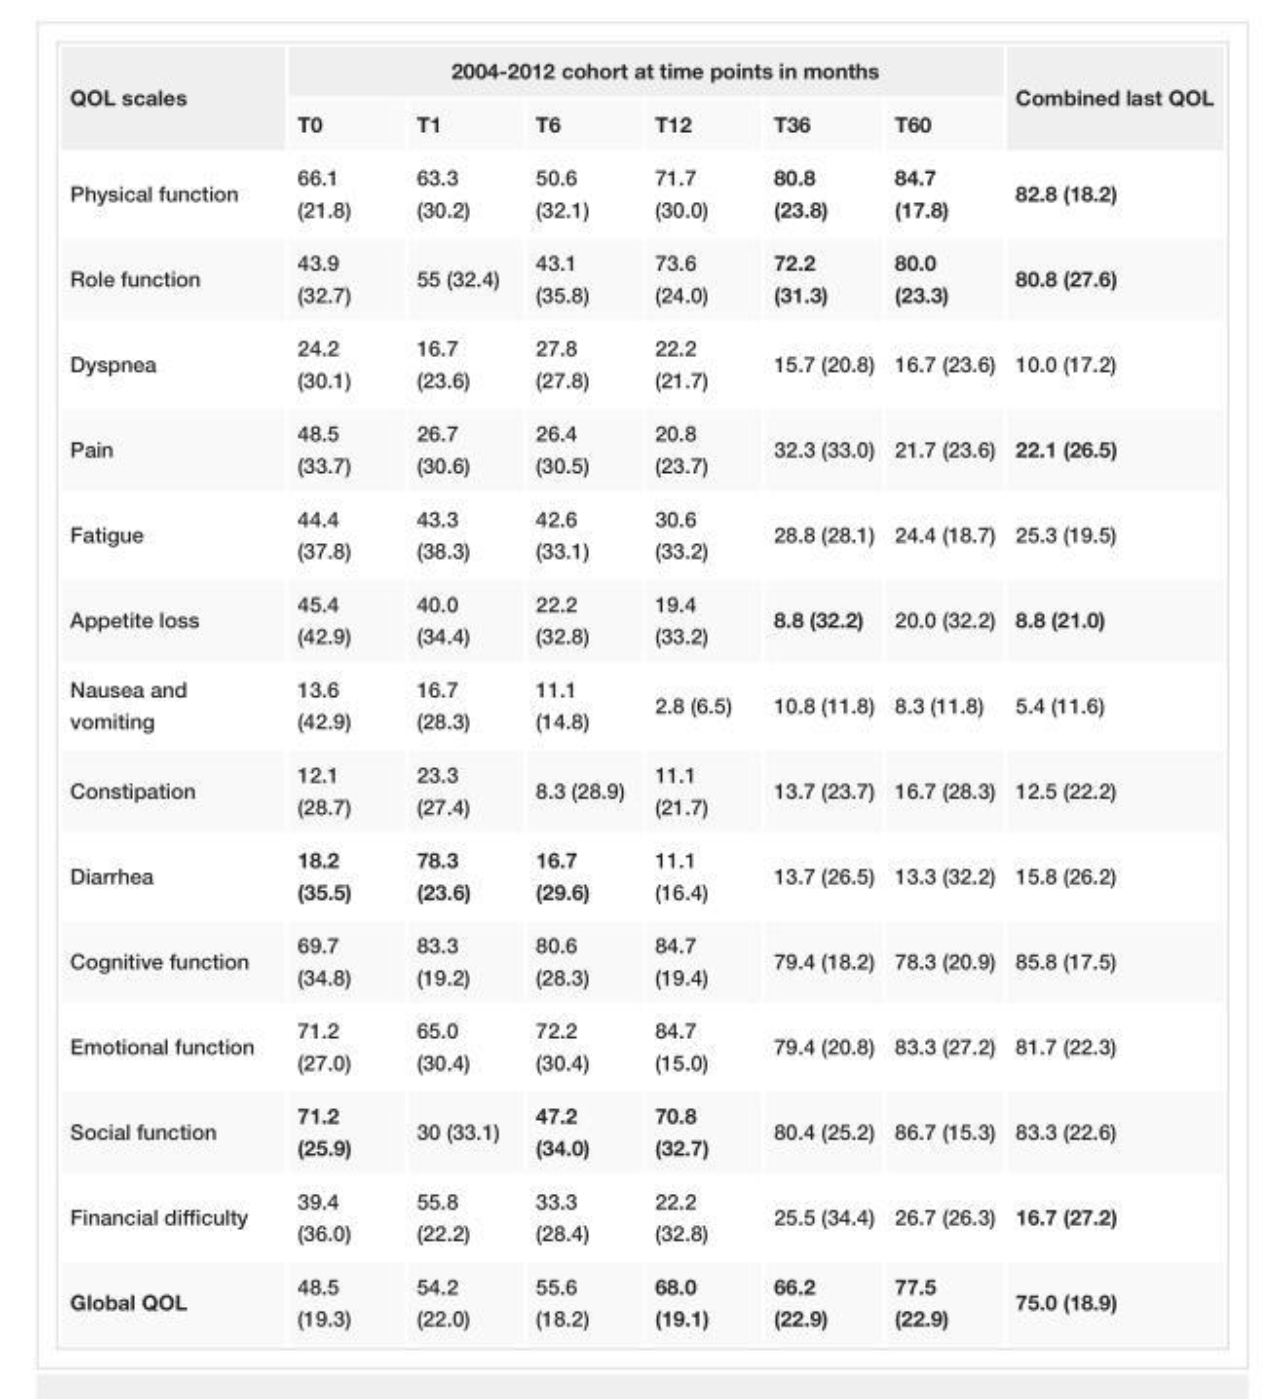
<table><tbody><tr><td rowspan="2">QOL scales</td><td colspan="6">2004-2012 cohort at time points in months</td><td rowspan="2">Combined last QOL</td></tr><tr><td>T0</td><td>T1</td><td>T6</td><td>T12</td><td>T36</td><td>T60</td></tr><tr><td>Physical function</td><td>66.1 (21.8)</td><td>63.3 (30.2)</td><td>50.6 (32.1)</td><td>71.7 (30.0)</td><td>80.8 (23.8)</td><td>84.7 (17.8)</td><td>82.8 (18.2)</td></tr><tr><td>Role function</td><td>43.9 (32.7)</td><td>55 (32.4)</td><td>43.1 (35.8)</td><td>73.6 (24.0)</td><td>72.2 (31.3)</td><td>80.0 (23.3)</td><td>80.8 (27.6)</td></tr><tr><td>Dyspnea</td><td>24.2 (30.1)</td><td>16.7 (23.6)</td><td>27.8 (27.8)</td><td>22.2 (21.7)</td><td>15.7 (20.8)</td><td>16.7 (23.6)</td><td>10.0 (17.2)</td></tr><tr><td>Pain</td><td>48.5 (33.7)</td><td>26.7 (30.6)</td><td>26.4 (30.5)</td><td>20.8 (23.7)</td><td>32.3 (33.0)</td><td>21.7 (23.6)</td><td>22.1 (26.5)</td></tr><tr><td>Fatigue</td><td>44.4 (37.8)</td><td>43.3 (38.3)</td><td>42.6 (33.1)</td><td>30.6 (33.2)</td><td>28.8 (28.1)</td><td>24.4 (18.7)</td><td>25.3 (19.5)</td></tr><tr><td>Appetite loss</td><td>45.4 (42.9)</td><td>40.0 (34.4)</td><td>22.2 (32.8)</td><td>19.4 (33.2)</td><td>8.8 (32.2)</td><td>20.0 (32.2)</td><td>8.8 (21.0)</td></tr><tr><td>Nausea and vomiting</td><td>13.6 (42.9)</td><td>16.7 (28.3)</td><td>11.1 (14.8)</td><td>2.8 (6.5)</td><td>10.8 (11.8)</td><td>8.3 (11.8)</td><td>5.4 (11.6)</td></tr><tr><td>Constipation</td><td>12.1 (28.7)</td><td>23.3 (27.4)</td><td>8.3 (28.9)</td><td>11.1 (21.7)</td><td>13.7 (23.7)</td><td>16.7 (28.3)</td><td>12.5 (22.2)</td></tr><tr><td>Diarrhea</td><td>18.2 (35.5)</td><td>78.3 (23.6)</td><td>16.7 (29.6)</td><td>11.1 (16.4)</td><td>13.7 (26.5)</td><td>13.3 (32.2)</td><td>15.8 (26.2)</td></tr><tr><td>Cognitive function</td><td>69.7 (34.8)</td><td>83.3 (19.2)</td><td>80.6 (28.3)</td><td>84.7 (19.4)</td><td>79.4 (18.2)</td><td>78.3 (20.9)</td><td>85.8 (17.5)</td></tr><tr><td>Emotional function</td><td>71.2 (27.0)</td><td>65.0 (30.4)</td><td>72.2 (30.4)</td><td>84.7 (15.0)</td><td>79.4 (20.8)</td><td>83.3 (27.2)</td><td>81.7 (22.3)</td></tr><tr><td>Social function</td><td>71.2 (25.9)</td><td>30 (33.1)</td><td>47.2 (34.0)</td><td>70.8 (32.7)</td><td>80.4 (25.2)</td><td>86.7 (15.3)</td><td>83.3 (22.6)</td></tr><tr><td>Financial difficulty</td><td>39.4 (36.0)</td><td>55.8 (22.2)</td><td>33.3 (28.4)</td><td>22.2 (32.8)</td><td>25.5 (34.4)</td><td>26.7 (26.3)</td><td>16.7 (27.2)</td></tr><tr><td>Global QOL</td><td>48.5 (19.3)</td><td>54.2 (22.0)</td><td>55.6 (18.2)</td><td>68.0 (19.1)</td><td>66.2 (22.9)</td><td>77.5 (22.9)</td><td>75.0 (18.9)</td></tr></tbody></table>